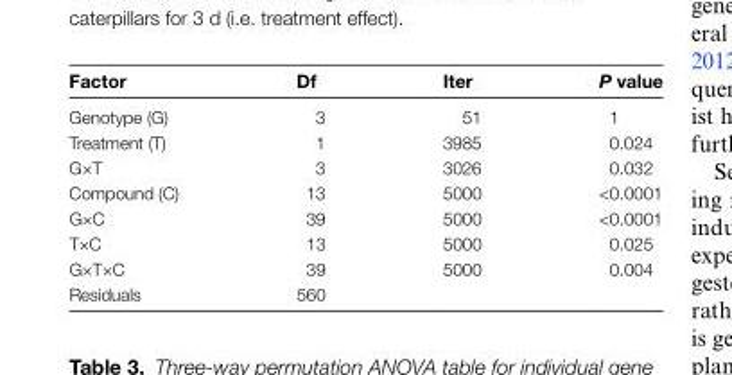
<table><thead><tr><td>Factor</td><td>Df</td><td>Iter</td><td>P value</td></tr></thead><tbody><tr><td>Genotype (G)</td><td>3</td><td>51</td><td>1</td></tr><tr><td>Treatment (T)</td><td>1</td><td>3985</td><td>0.024</td></tr><tr><td>G×T</td><td>3</td><td>3026</td><td>0.032</td></tr><tr><td>Compound (C)</td><td>13</td><td>5000</td><td>&lt;0.0001</td></tr><tr><td>G×C</td><td>39</td><td>5000</td><td>&lt;0.0001</td></tr><tr><td>T×C</td><td>13</td><td>5000</td><td>0.025</td></tr><tr><td>G×T×C</td><td>39</td><td>5000</td><td>0.004</td></tr><tr><td>Residuals</td><td>560</td><td></td><td></td></tr></tbody></table>